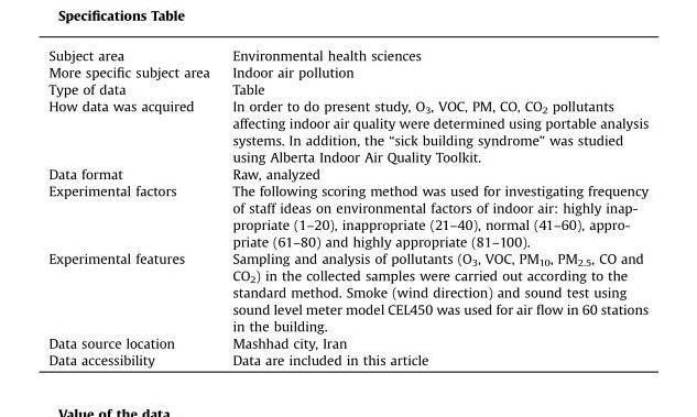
<table><tbody><tr><td>Subject area</td><td>Environmental health sciences</td></tr><tr><td>More specific subject area</td><td>Indoor air pollution</td></tr><tr><td>Type of data</td><td>Table</td></tr><tr><td>How data was acquired</td><td>In order to do present study, O<sub>3</sub>, VOC, PM, CO, CO<sub>2</sub> pollutants affecting indoor air quality were determined using portable analysis systems. In addition, the “sick building syndrome” was studied using Alberta Indoor Air Quality Toolkit.</td></tr><tr><td>Data format</td><td>Raw, analyzed</td></tr><tr><td>Experimental factors</td><td>The following scoring method was used for investigating frequency of staff ideas on environmental factors of indoor air: highly inap- propriate (1–20), inappropriate (21–40), normal (41–60), appro- priate (61–80) and highly appropriate (81–100).</td></tr><tr><td>Experimental features</td><td>Sampling and analysis of pollutants (O<sub>3</sub>, VOC, PM<sub>10</sub>, PM<sub>2.5</sub>, CO and CO<sub>2</sub>) in the collected samples were carried out according to the standard method. Smoke (wind direction) and sound test using sound level meter model CEL450 was used for air flow in 60 stations in the building.</td></tr><tr><td>Data source location</td><td>Mashhad city, Iran</td></tr><tr><td>Data accessibility</td><td>Data are included in this article</td></tr></tbody></table>